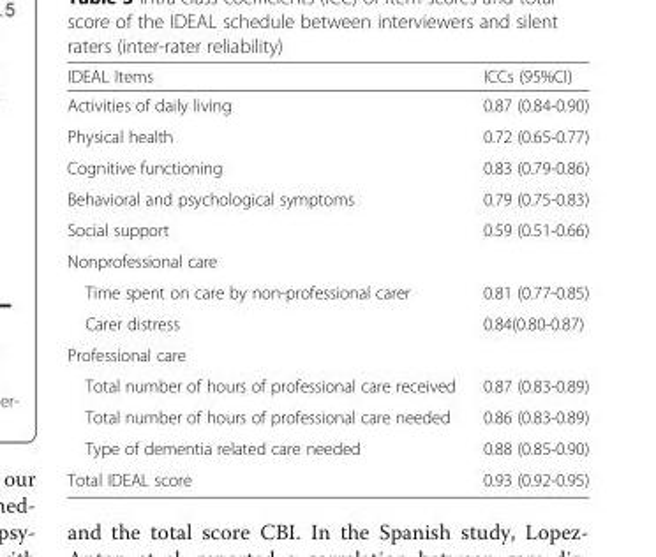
<table><thead><tr><td>IDEAL Items</td><td>ICCs (95%CI)</td></tr></thead><tbody><tr><td>Activities of daily living</td><td>0.87 (0.84-0.90)</td></tr><tr><td>Physical health</td><td>0.72 (0.65-0.77)</td></tr><tr><td>Cognitive functioning</td><td>0.83 (0.79-0.86)</td></tr><tr><td>Behavioral and psychological symptoms</td><td>0.79 (0.75-0.83)</td></tr><tr><td>Social support</td><td>0.59 (0.51-0.66)</td></tr><tr><td colspan="2">Nonprofessional care</td></tr><tr><td>Time spent on care by non-professional carer</td><td>0.81 (0.77-0.85)</td></tr><tr><td>Carer distress</td><td>0.84(0.80-0.87)</td></tr><tr><td colspan="2">Professional care</td></tr><tr><td>Total number of hours of professional care received</td><td>0.87 (0.83-0.89)</td></tr><tr><td>Total number of hours of professional care needed</td><td>0.86 (0.83-0.89)</td></tr><tr><td>Type of dementia related care needed</td><td>0.88 (0.85-0.90)</td></tr><tr><td>Total IDEAL score</td><td>0.93 (0.92-0.95)</td></tr></tbody></table>